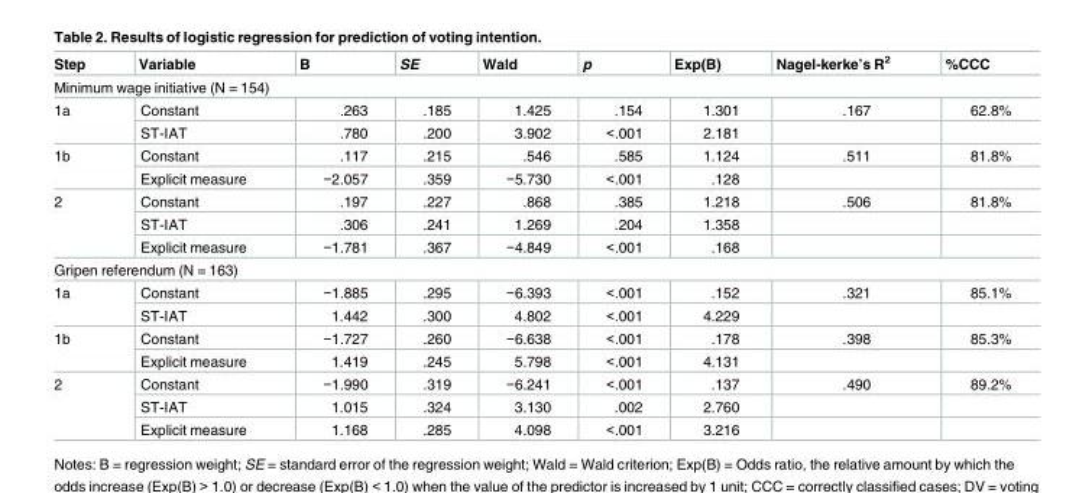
<table><thead><tr><td>Step</td><td>Variable</td><td>B</td><td>SE</td><td>Wald</td><td>p</td><td>Exp(B)</td><td>Nagel-kerke’s R<sup>2</sup></td><td>%CCC</td></tr></thead><tbody><tr><td colspan="9">Minimum wage initiative (N = 154)</td></tr><tr><td rowspan="2">1a</td><td>Constant</td><td>.263</td><td>.185</td><td>1.425</td><td>.154</td><td>1.301</td><td>.167</td><td>62.8%</td></tr><tr><td>ST-IAT</td><td>.780</td><td>.200</td><td>3.902</td><td>&lt;.001</td><td>2.181</td><td></td><td></td></tr><tr><td rowspan="2">1b</td><td>Constant</td><td>.117</td><td>.215</td><td>.546</td><td>.585</td><td>1.124</td><td>.511</td><td>81.8%</td></tr><tr><td>Explicit measure</td><td>−2.057</td><td>.359</td><td>−5.730</td><td>&lt;.001</td><td>.128</td><td></td><td></td></tr><tr><td rowspan="3">2</td><td>Constant</td><td>.197</td><td>.227</td><td>.868</td><td>.385</td><td>1.218</td><td>.506</td><td>81.8%</td></tr><tr><td>ST-IAT</td><td>.306</td><td>.241</td><td>1.269</td><td>.204</td><td>1.358</td><td></td><td></td></tr><tr><td>Explicit measure</td><td>−1.781</td><td>.367</td><td>−4.849</td><td>&lt;.001</td><td>.168</td><td></td><td></td></tr><tr><td colspan="9">Gripen referendum (N = 163)</td></tr><tr><td rowspan="2">1a</td><td>Constant</td><td>−1.885</td><td>.295</td><td>−6.393</td><td>&lt;.001</td><td>.152</td><td>.321</td><td>85.1%</td></tr><tr><td>ST-IAT</td><td>1.442</td><td>.300</td><td>4.802</td><td>&lt;.001</td><td>4.229</td><td></td><td></td></tr><tr><td rowspan="2">1b</td><td>Constant</td><td>−1.727</td><td>.260</td><td>−6.638</td><td>&lt;.001</td><td>.178</td><td>.398</td><td>85.3%</td></tr><tr><td>Explicit measure</td><td>1.419</td><td>.245</td><td>5.798</td><td>&lt;.001</td><td>4.131</td><td></td><td></td></tr><tr><td rowspan="3">2</td><td>Constant</td><td>−1.990</td><td>.319</td><td>−6.241</td><td>&lt;.001</td><td>.137</td><td>.490</td><td>89.2%</td></tr><tr><td>ST-IAT</td><td>1.015</td><td>.324</td><td>3.130</td><td>.002</td><td>2.760</td><td></td><td></td></tr><tr><td>Explicit measure</td><td>1.168</td><td>.285</td><td>4.098</td><td>&lt;.001</td><td>3.216</td><td></td><td></td></tr></tbody></table>